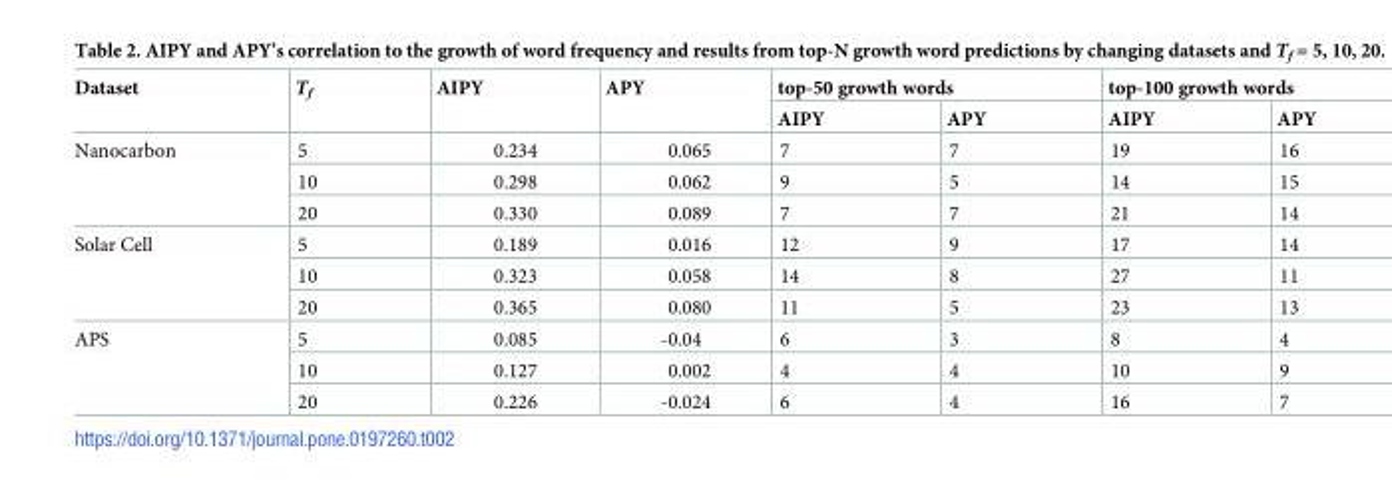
<table><thead><tr><td rowspan="2">Dataset</td><td rowspan="2">T<sub>f</sub></td><td rowspan="2">AIPY</td><td rowspan="2">APY</td><td colspan="2">top-50 growth words</td><td colspan="2">top-100 growth words</td></tr><tr><td>AIPY</td><td>APY</td><td>AIPY</td><td>APY</td></tr></thead><tbody><tr><td rowspan="3">Nanocarbon</td><td>5</td><td>0.234</td><td>0.065</td><td>7</td><td>7</td><td>19</td><td>16</td></tr><tr><td>10</td><td>0.298</td><td>0.062</td><td>9</td><td>5</td><td>14</td><td>15</td></tr><tr><td>20</td><td>0.330</td><td>0.089</td><td>7</td><td>7</td><td>21</td><td>14</td></tr><tr><td rowspan="3">Solar Cell</td><td>5</td><td>0.189</td><td>0.016</td><td>12</td><td>9</td><td>17</td><td>14</td></tr><tr><td>10</td><td>0.323</td><td>0.058</td><td>14</td><td>8</td><td>27</td><td>11</td></tr><tr><td>20</td><td>0.365</td><td>0.080</td><td>11</td><td>5</td><td>23</td><td>13</td></tr><tr><td rowspan="3">APS</td><td>5</td><td>0.085</td><td>-0.04</td><td>6</td><td>3</td><td>8</td><td>4</td></tr><tr><td>10</td><td>0.127</td><td>0.002</td><td>4</td><td>4</td><td>10</td><td>9</td></tr><tr><td>20</td><td>0.226</td><td>-0.024</td><td>6</td><td>4</td><td>16</td><td>7</td></tr></tbody></table>